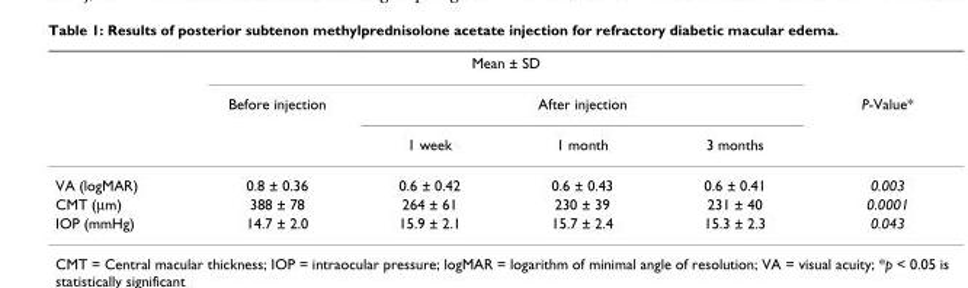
<table><thead><tr><td rowspan="3"></td><td colspan="4">Mean ± SD</td><td rowspan="3">P-Value*</td></tr><tr><td rowspan="2">Before injection</td><td colspan="3">After injection</td></tr><tr><td>1 week</td><td>1 month</td><td>3 months</td></tr></thead><tbody><tr><td>VA (logMAR)</td><td>0.8 ± 0.36</td><td>0.6 ± 0.42</td><td>0.6 ± 0.43</td><td>0.6 ± 0.41</td><td>0.003</td></tr><tr><td>CMT (μm)</td><td>388 ± 78</td><td>264 ± 61</td><td>230 ± 39</td><td>231 ± 40</td><td>0.0001</td></tr><tr><td>IOP (mmHg)</td><td>14.7 ± 2.0</td><td>15.9 ± 2.1</td><td>15.7 ± 2.4</td><td>15.3 ± 2.3</td><td>0.043</td></tr></tbody></table>